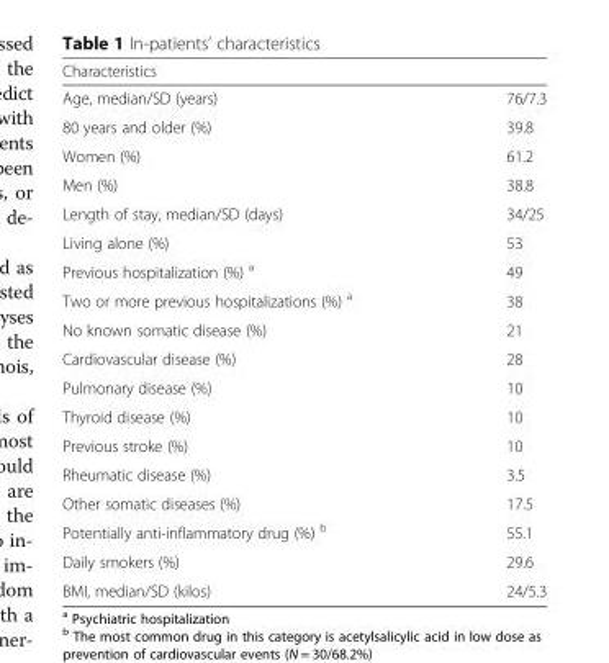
<table><thead><tr><td colspan="2">Characteristics</td></tr><tr><td>Age, median/SD (years)</td><td>76/7.3</td></tr></thead><tbody><tr><td>80 years and older (%)</td><td>39.8</td></tr><tr><td>Women (%)</td><td>61.2</td></tr><tr><td>Men (%)</td><td>38.8</td></tr><tr><td>Length of stay, median/SD (days)</td><td>34/25</td></tr><tr><td>Living alone (%)</td><td>53</td></tr><tr><td>Previous hospitalization (%) <sup>a</sup></td><td>49</td></tr><tr><td>Two or more previous hospitalizations (%) <sup>a</sup></td><td>38</td></tr><tr><td>No known somatic disease (%)</td><td>21</td></tr><tr><td>Cardiovascular disease (%)</td><td>28</td></tr><tr><td>Pulmonary disease (%)</td><td>10</td></tr><tr><td>Thyroid disease (%)</td><td>10</td></tr><tr><td>Previous stroke (%)</td><td>10</td></tr><tr><td>Rheumatic disease (%)</td><td>3.5</td></tr><tr><td>Other somatic diseases (%)</td><td>17.5</td></tr><tr><td>Potentially anti-inflammatory drug (%) <sup>b</sup></td><td>55.1</td></tr><tr><td>Daily smokers (%)</td><td>29.6</td></tr><tr><td>BMI, median/SD (kilos)</td><td>24/5.3</td></tr></tbody></table>